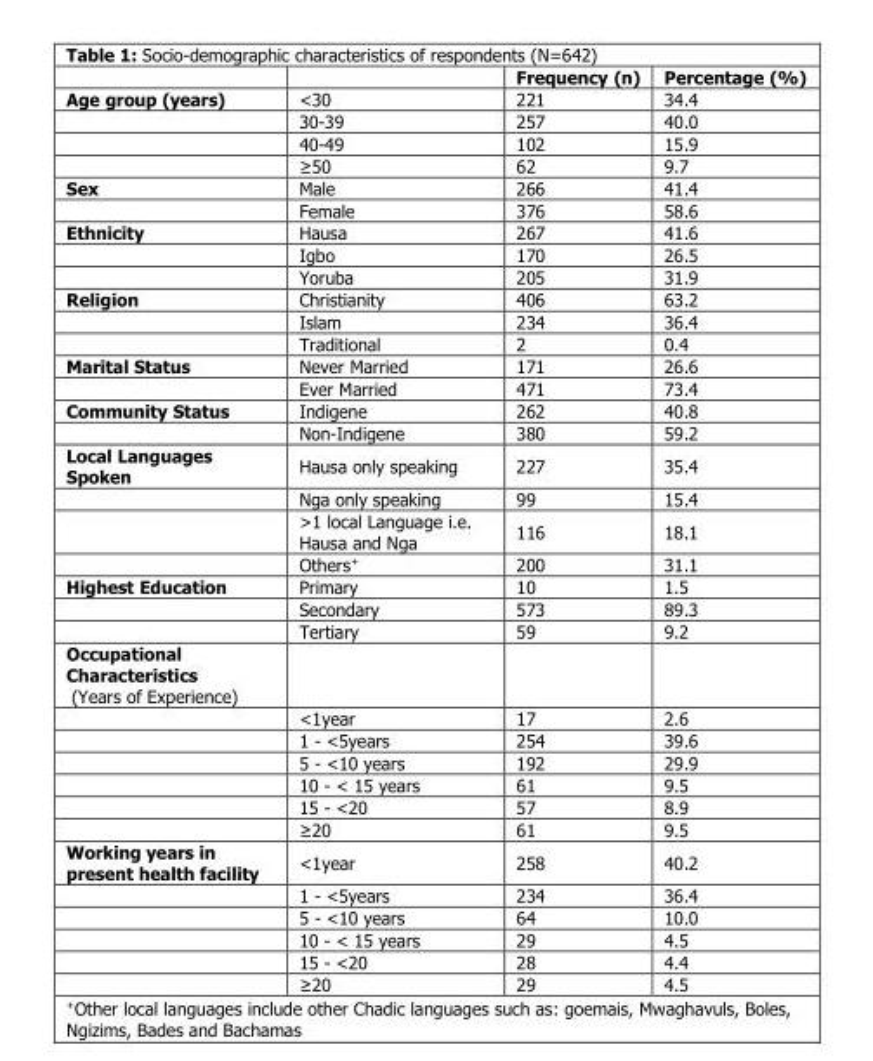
<table><thead><tr><td></td><td></td><td>Frequency (n)</td><td>Percentage (%)</td></tr></thead><tbody><tr><td rowspan="4">Age group (years)</td><td>&lt;30</td><td>221</td><td>34.4</td></tr><tr><td>30-39</td><td>257</td><td>40.0</td></tr><tr><td>40-49</td><td>102</td><td>15.9</td></tr><tr><td>≥50</td><td>62</td><td>9.7</td></tr><tr><td rowspan="2">Sex</td><td>Male</td><td>266</td><td>41.4</td></tr><tr><td>Female</td><td>376</td><td>58.6</td></tr><tr><td rowspan="3">Ethnicity</td><td>Hausa</td><td>267</td><td>41.6</td></tr><tr><td>Igbo</td><td>170</td><td>26.5</td></tr><tr><td>Yoruba</td><td>205</td><td>31.9</td></tr><tr><td rowspan="3">Religion</td><td>Christianity</td><td>406</td><td>63.2</td></tr><tr><td>Islam</td><td>234</td><td>36.4</td></tr><tr><td>Traditional</td><td>2</td><td>0.4</td></tr><tr><td rowspan="2">Marital Status</td><td>Never Married</td><td>171</td><td>26.6</td></tr><tr><td>Ever Married</td><td>471</td><td>73.4</td></tr><tr><td rowspan="2">Community Status</td><td>Indigene</td><td>262</td><td>40.8</td></tr><tr><td>Non-Indigene</td><td>380</td><td>59.2</td></tr><tr><td rowspan="4">Local Languages Spoken</td><td>Hausa only speaking</td><td>227</td><td>35.4</td></tr><tr><td>Nga only speaking</td><td>99</td><td>15.4</td></tr><tr><td>&gt;1 local Language i.e. Hausa and Nga</td><td>116</td><td>18.1</td></tr><tr><td>Others+</td><td>200</td><td>31.1</td></tr><tr><td rowspan="3">Highest Education</td><td>Primary</td><td>10</td><td>1.5</td></tr><tr><td>Secondary</td><td>573</td><td>89.3</td></tr><tr><td>Tertiary</td><td>59</td><td>9.2</td></tr><tr><td colspan="4">Occupational Characteristics (Years of Experience)</td></tr><tr><td></td><td>&lt;1year</td><td>17</td><td>2.6</td></tr><tr><td></td><td>1 - &lt;5years</td><td>254</td><td>39.6</td></tr><tr><td></td><td>5 - &lt;10 years</td><td>192</td><td>29.9</td></tr><tr><td></td><td>10 - &lt; 15 years</td><td>61</td><td>9.5</td></tr><tr><td></td><td>15 - &lt;20</td><td>57</td><td>8.9</td></tr><tr><td></td><td>≥20</td><td>61</td><td>9.5</td></tr><tr><td rowspan="6">Working years in present health facility</td><td>&lt;1year</td><td>258</td><td>40.2</td></tr><tr><td>1 - &lt;5years</td><td>234</td><td>36.4</td></tr><tr><td>5 - &lt;10 years</td><td>64</td><td>10.0</td></tr><tr><td>10 - &lt; 15 years</td><td>29</td><td>4.5</td></tr><tr><td>15 - &lt;20</td><td>28</td><td>4.4</td></tr><tr><td>≥20</td><td>29</td><td>4.5</td></tr></tbody></table>